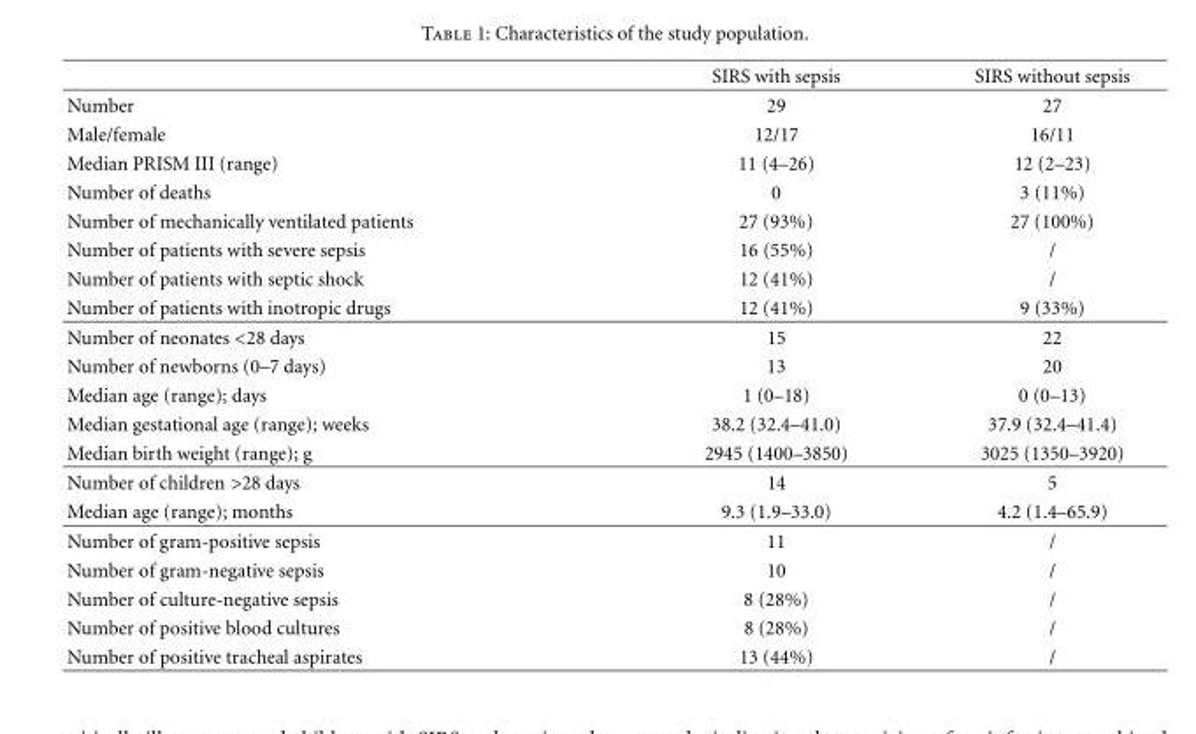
<table><thead><tr><td></td><td>SIRS with sepsis</td><td>SIRS without sepsis</td></tr></thead><tbody><tr><td>Number</td><td>29</td><td>27</td></tr><tr><td>Male/female</td><td>12/17</td><td>16/11</td></tr><tr><td>Median PRISM III (range)</td><td>11 (4–26)</td><td>12 (2–23)</td></tr><tr><td>Number of deaths</td><td>0</td><td>3 (11%)</td></tr><tr><td>Number of mechanically ventilated patients</td><td>27 (93%)</td><td>27 (100%)</td></tr><tr><td>Number of patients with severe sepsis</td><td>16 (55%)</td><td>/</td></tr><tr><td>Number of patients with septic shock</td><td>12 (41%)</td><td>/</td></tr><tr><td>Number of patients with inotropic drugs</td><td>12 (41%)</td><td>9 (33%)</td></tr><tr><td>Number of neonates &lt;28 days</td><td>15</td><td>22</td></tr><tr><td>Number of newborns (0–7 days)</td><td>13</td><td>20</td></tr><tr><td>Median age (range); days</td><td>1 (0–18)</td><td>0 (0–13)</td></tr><tr><td>Median gestational age (range); weeks</td><td>38.2 (32.4–41.0)</td><td>37.9 (32.4–41.4)</td></tr><tr><td>Median birth weight (range); g</td><td>2945 (1400–3850)</td><td>3025 (1350–3920)</td></tr><tr><td>Number of children &gt;28 days</td><td>14</td><td>5</td></tr><tr><td>Median age (range); months</td><td>9.3 (1.9–33.0)</td><td>4.2 (1.4–65.9)</td></tr><tr><td>Number of gram-positive sepsis</td><td>11</td><td>/</td></tr><tr><td>Number of gram-negative sepsis</td><td>10</td><td>/</td></tr><tr><td>Number of culture-negative sepsis</td><td>8 (28%)</td><td>/</td></tr><tr><td>Number of positive blood cultures</td><td>8 (28%)</td><td>/</td></tr><tr><td>Number of positive tracheal aspirates</td><td>13 (44%)</td><td>/</td></tr></tbody></table>